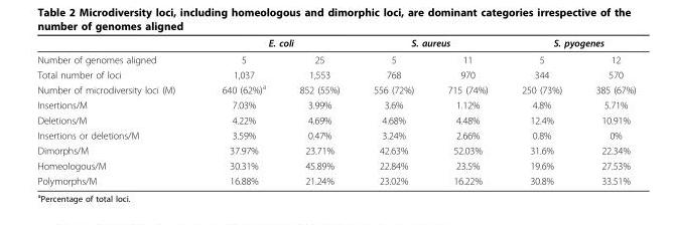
<table><thead><tr><td rowspan="2">Number of genomes aligned</td><td colspan="2">E. coli</td><td colspan="2">S. aureus</td><td colspan="2">S. pyogenes</td></tr><tr><td>5</td><td>25</td><td>5</td><td>11</td><td>5</td><td>12</td></tr></thead><tbody><tr><td>Total number of loci</td><td>1,037</td><td>1,553</td><td>768</td><td>970</td><td>344</td><td>570</td></tr><tr><td>Number of microdiversity loci (M)</td><td>640 (62%)<sup>a</sup></td><td>852 (55%)</td><td>556 (72%)</td><td>715 (74%)</td><td>250 (73%)</td><td>385 (67%)</td></tr><tr><td>Insertions/M</td><td>7.03%</td><td>3.99%</td><td>3.6%</td><td>1.12%</td><td>4.8%</td><td>5.71%</td></tr><tr><td>Deletions/M</td><td>4.22%</td><td>4.69%</td><td>4.68%</td><td>4.48%</td><td>12.4%</td><td>10.91%</td></tr><tr><td>Insertions or deletions/M</td><td>3.59%</td><td>0.47%</td><td>3.24%</td><td>2.66%</td><td>0.8%</td><td>0%</td></tr><tr><td>Dimorphs/M</td><td>37.97%</td><td>23.71%</td><td>42.63%</td><td>52.03%</td><td>31.6%</td><td>22.34%</td></tr><tr><td>Homeologous/M</td><td>30.31%</td><td>45.89%</td><td>22.84%</td><td>23.5%</td><td>19.6%</td><td>27.53%</td></tr><tr><td>Polymorphs/M</td><td>16.88%</td><td>21.24%</td><td>23.02%</td><td>16.22%</td><td>30.8%</td><td>33.51%</td></tr></tbody></table>